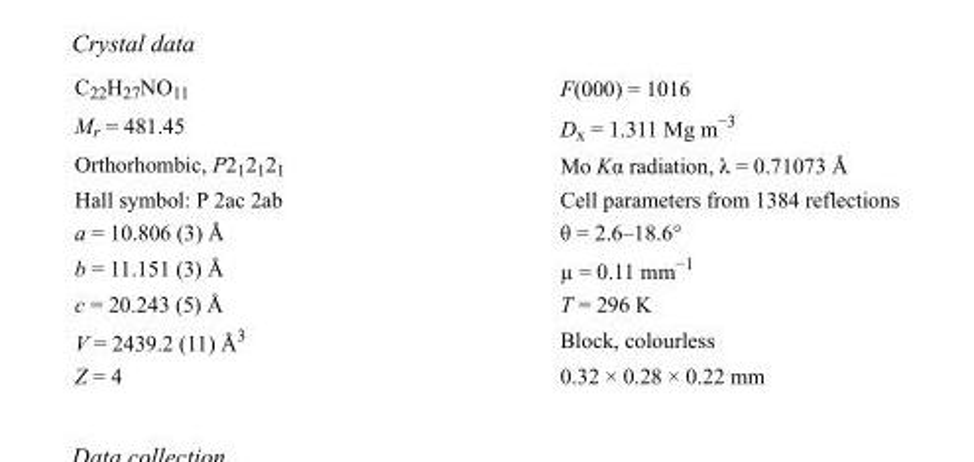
<table><tbody><tr><td>C<sub>22</sub>H<sub>27</sub>NO<sub>11</sub></td><td>F(000) = 1016</td></tr><tr><td>M<sub>r</sub> = 481.45</td><td>D<sub>x</sub> = 1.311 Mg m<sup>−3</sup></td></tr><tr><td>Orthorhombic, P2<sub>1</sub>2<sub>1</sub>2<sub>1</sub></td><td>Mo Kα radiation, λ = 0.71073 Å</td></tr><tr><td>Hall symbol: P 2ac 2ab</td><td>Cell parameters from 1384 reflections</td></tr><tr><td>a = 10.806 (3) Å</td><td>θ = 2.6–18.6°</td></tr><tr><td>b = 11.151 (3) Å</td><td>µ = 0.11 mm<sup>−1</sup></td></tr><tr><td>c = 20.243 (5) Å</td><td>T = 296 K</td></tr><tr><td>V = 2439.2 (11) Å<sup>3</sup></td><td>Block, colourless</td></tr><tr><td>Z = 4</td><td>0.32 × 0.28 × 0.22 mm</td></tr></tbody></table>